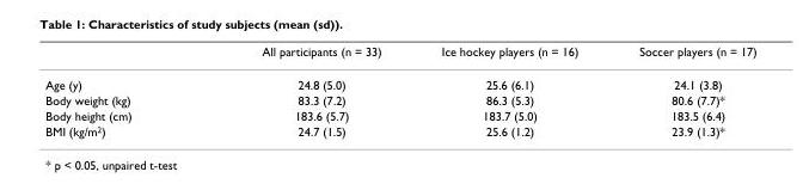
<table><thead><tr><td></td><td>All participants (n = 33)</td><td>Ice hockey players (n = 16)</td><td>Soccer players (n = 17)</td></tr></thead><tbody><tr><td>Age (y)</td><td>24.8 (5.0)</td><td>25.6 (6.1)</td><td>24.1 (3.8)</td></tr><tr><td>Body weight (kg)</td><td>83.3 (7.2)</td><td>86.3 (5.3)</td><td>80.6 (7.7)*</td></tr><tr><td>Body height (cm)</td><td>183.6 (5.7)</td><td>183.7 (5.0)</td><td>183.5 (6.4)</td></tr><tr><td>BMI (kg/m<sup>2</sup>)</td><td>24.7 (1.5)</td><td>25.6 (1.2)</td><td>23.9 (1.3)*</td></tr></tbody></table>